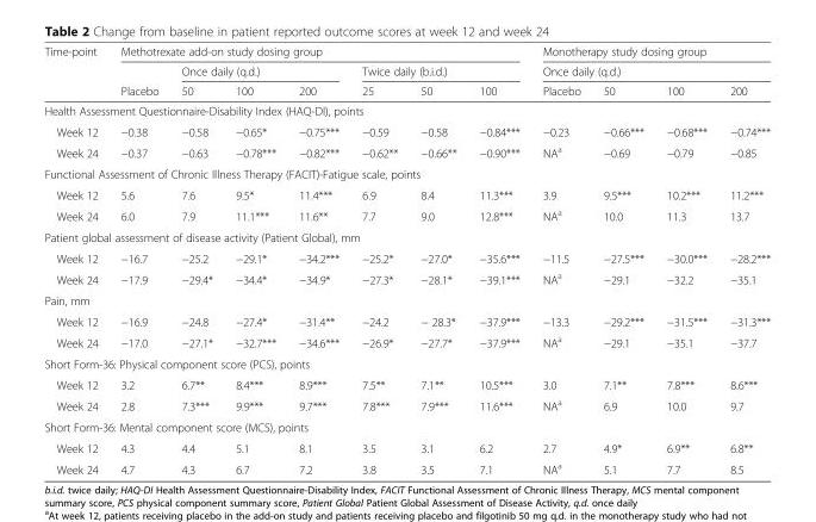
<table><thead><tr><td rowspan="3">Time-point</td><td colspan="7">Methotrexate add-on study dosing group</td><td rowspan="2" colspan="4">Monotherapy study dosing group Once daily (q.d.)</td></tr><tr><td rowspan="2">Placebo</td><td colspan="3">Once daily (q.d.)</td><td colspan="3">Twice daily (b.i.d.)</td></tr><tr><td>50</td><td>100</td><td>200</td><td>25</td><td>50</td><td>100</td><td>Placebo</td><td>50</td><td>100</td><td>200</td></tr></thead><tbody><tr><td colspan="12">Health Assessment Questionnaire-Disability Index (HAQ-DI), points</td></tr><tr><td>Week 12</td><td>−0.38</td><td>−0.58</td><td>−0.65*</td><td>−0.75***</td><td>−0.59</td><td>−0.58</td><td>−0.84***</td><td>−0.23</td><td>−0.66***</td><td>−0.68***</td><td>−0.74***</td></tr><tr><td>Week 24</td><td>−0.37</td><td>−0.63</td><td>−0.78***</td><td>−0.82***</td><td>−0.62**</td><td>−0.66**</td><td>−0.90***</td><td>NA<sup>a</sup></td><td>−0.69</td><td>−0.79</td><td>−0.85</td></tr><tr><td colspan="12">Functional Assessment of Chronic Illness Therapy (FACIT)-Fatigue scale, points</td></tr><tr><td>Week 12</td><td>5.6</td><td>7.6</td><td>9.5*</td><td>11.4***</td><td>6.9</td><td>8.4</td><td>11.3***</td><td>3.9</td><td>9.5***</td><td>10.2***</td><td>11.2***</td></tr><tr><td>Week 24</td><td>6.0</td><td>7.9</td><td>11.1***</td><td>11.6**</td><td>7.7</td><td>9.0</td><td>12.8***</td><td>NA<sup>a</sup></td><td>10.0</td><td>11.3</td><td>13.7</td></tr><tr><td colspan="12">Patient global assessment of disease activity (Patient Global), mm</td></tr><tr><td>Week 12</td><td>−16.7</td><td>−25.2</td><td>−29.1*</td><td>−34.2***</td><td>−25.2*</td><td>−27.0*</td><td>−35.6***</td><td>−11.5</td><td>−27.5***</td><td>−30.0***</td><td>−28.2***</td></tr><tr><td>Week 24</td><td>−17.9</td><td>−29.4*</td><td>−34.4*</td><td>−34.9*</td><td>−27.3*</td><td>−28.1*</td><td>−39.1***</td><td>NA<sup>a</sup></td><td>−29.1</td><td>−32.2</td><td>−35.1</td></tr><tr><td colspan="12">Pain, mm</td></tr><tr><td>Week 12</td><td>−16.9</td><td>−24.8</td><td>−27.4*</td><td>−31.4**</td><td>−24.2</td><td>− 28.3*</td><td>−37.9***</td><td>−13.3</td><td>−29.2***</td><td>−31.5***</td><td>−31.3***</td></tr><tr><td>Week 24</td><td>−17.0</td><td>−27.1*</td><td>−32.7***</td><td>−34.6***</td><td>−26.9*</td><td>−27.7*</td><td>−37.9***</td><td>NA<sup>a</sup></td><td>−29.1</td><td>−35.1</td><td>−37.7</td></tr><tr><td colspan="12">Short Form-36: Physical component score (PCS), points</td></tr><tr><td>Week 12</td><td>3.2</td><td>6.7**</td><td>8.4***</td><td>8.9***</td><td>7.5**</td><td>7.1**</td><td>10.5***</td><td>3.0</td><td>7.1**</td><td>7.8***</td><td>8.6***</td></tr><tr><td>Week 24</td><td>2.8</td><td>7.3***</td><td>9.9***</td><td>9.7***</td><td>7.8***</td><td>7.9***</td><td>11.6***</td><td>NA<sup>a</sup></td><td>6.9</td><td>10.0</td><td>9.7</td></tr><tr><td colspan="12">Short Form-36: Mental component score (MCS), points</td></tr><tr><td>Week 12</td><td>4.3</td><td>4.4</td><td>5.1</td><td>8.1</td><td>3.5</td><td>3.1</td><td>6.2</td><td>2.7</td><td>4.9*</td><td>6.9**</td><td>6.8**</td></tr><tr><td>Week 24</td><td>4.7</td><td>4.3</td><td>6.7</td><td>7.2</td><td>3.8</td><td>3.5</td><td>7.1</td><td>NA<sup>a</sup></td><td>5.1</td><td>7.7</td><td>8.5</td></tr></tbody></table>